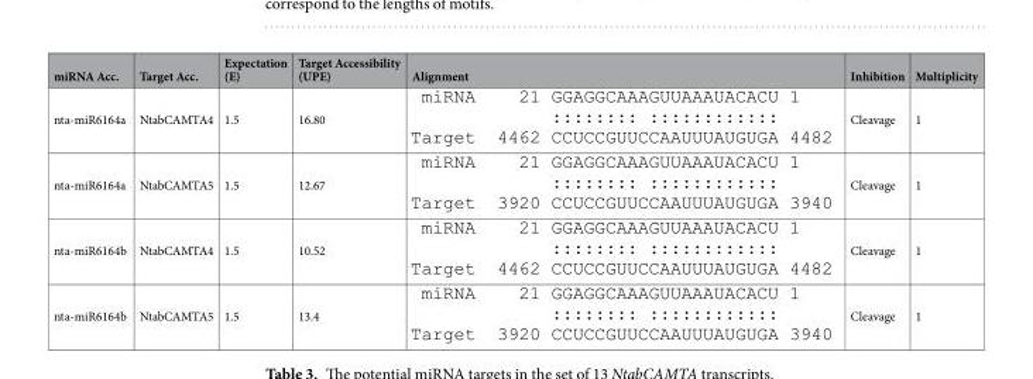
<table><thead><tr><td>miRNA Acc.</td><td>Target Acc.</td><td>Expectation (E)</td><td>Target Accessibility (UPE)</td><td>Alignment</td><td>Inhibition</td><td>Multiplicity</td></tr></thead><tbody><tr><td>nta-miR6164a</td><td>NtabCAMTA4</td><td>1.5</td><td>16.80</td><td></td><td>Cleavage</td><td>1</td></tr><tr><td>nta-miR6164a</td><td>NtabCAMTA5</td><td>1.5</td><td>12.67</td><td></td><td>Cleavage</td><td>1</td></tr><tr><td>nta-miR6164b</td><td>NtabCAMTA4</td><td>1.5</td><td>10.52</td><td></td><td>Cleavage</td><td>1</td></tr><tr><td>nta-miR6164b</td><td>NtabCAMTA5</td><td>1.5</td><td>13.4</td><td></td><td>Cleavage</td><td>1</td></tr></tbody></table>